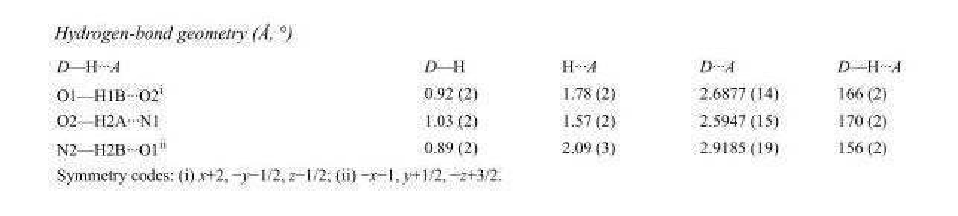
<table><tbody><tr><td>D—H···A</td><td>D—H</td><td>H···A</td><td>D···A</td><td>D—H···A</td></tr><tr><td>O1—H1B···O2<sup>i</sup></td><td>0.92 (2)</td><td>1.78 (2)</td><td>2.6877 (14)</td><td>166 (2)</td></tr><tr><td>O2—H2A···N1</td><td>1.03 (2)</td><td>1.57 (2)</td><td>2.5947 (15)</td><td>170 (2)</td></tr><tr><td>N2—H2B···O1<sup>ii</sup></td><td>0.89 (2)</td><td>2.09 (3)</td><td>2.9185 (19)</td><td>156 (2)</td></tr></tbody></table>